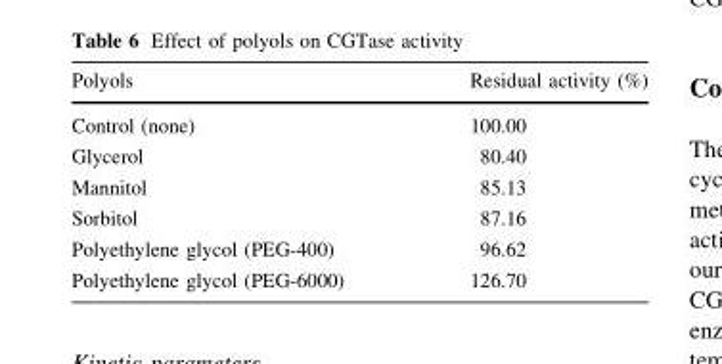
<table><thead><tr><td>Polyols</td><td>Residual activity (%)</td></tr></thead><tbody><tr><td>Control (none)</td><td>100.00</td></tr><tr><td>Glycerol</td><td>80.40</td></tr><tr><td>Mannitol</td><td>85.13</td></tr><tr><td>Sorbitol</td><td>87.16</td></tr><tr><td>Polyethylene glycol (PEG-400)</td><td>96.62</td></tr><tr><td>Polyethylene glycol (PEG-6000)</td><td>126.70</td></tr></tbody></table>